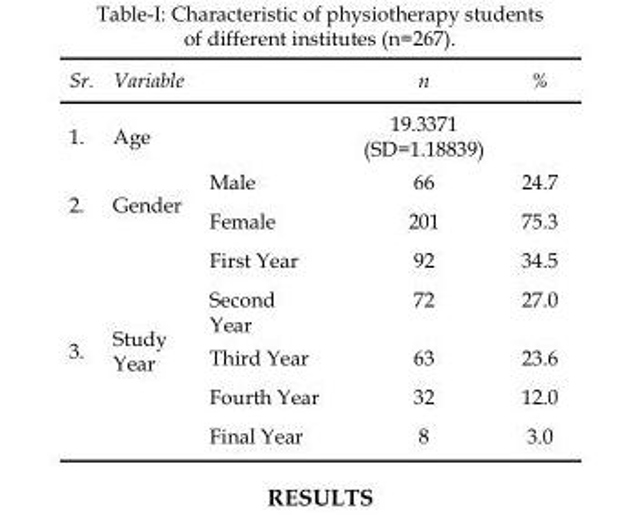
<table><thead><tr><td rowspan="2">Sr. 1.</td><td colspan="2">Variable</td><td rowspan="2">n 19.3371 (SD=1.18839)</td><td rowspan="2">%</td></tr><tr><td>Age</td><td></td></tr></thead><tbody><tr><td rowspan="2">2.</td><td rowspan="2">Gender</td><td>Male</td><td>66</td><td>24.7</td></tr><tr><td>Female</td><td>201</td><td>75.3</td></tr><tr><td rowspan="5">3.</td><td rowspan="5">Study Year</td><td>First Year</td><td>92</td><td>34.5</td></tr><tr><td>Second Year</td><td>72</td><td>27.0</td></tr><tr><td>Third Year</td><td>63</td><td>23.6</td></tr><tr><td>Fourth Year</td><td>32</td><td>12.0</td></tr><tr><td>Final Year</td><td>8</td><td>3.0</td></tr></tbody></table>